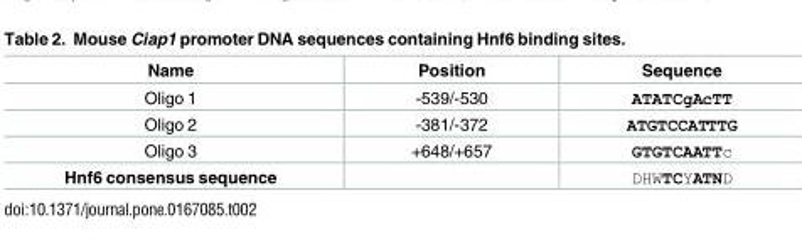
<table><thead><tr><td>Name</td><td>Position</td><td>Sequence</td></tr></thead><tbody><tr><td>Oligo 1</td><td>-539/-530</td><td>ATATCgAcTT</td></tr><tr><td>Oligo 2</td><td>-381/-372</td><td>ATGTCCATTTG</td></tr><tr><td>Oligo 3</td><td>+648/+657</td><td>GTGTCAATTc</td></tr><tr><td>Hnf6 consensus sequence</td><td></td><td>DHWTCYATND</td></tr></tbody></table>